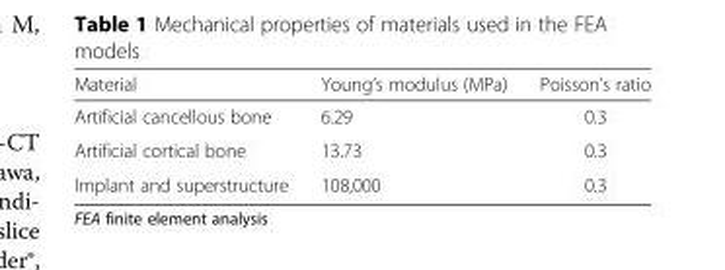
<table><thead><tr><td>Material</td><td>Young’s modulus (MPa)</td><td>Poisson’s ratio</td></tr></thead><tbody><tr><td>Artificial cancellous bone</td><td>6.29</td><td>0.3</td></tr><tr><td>Artificial cortical bone</td><td>13.73</td><td>0.3</td></tr><tr><td>Implant and superstructure</td><td>108,000</td><td>0.3</td></tr></tbody></table>